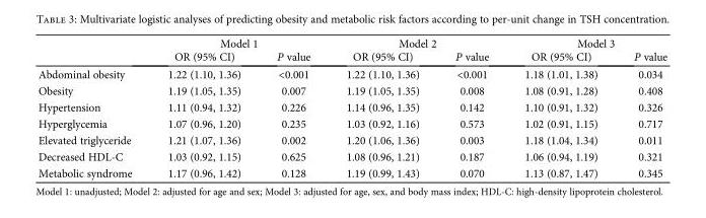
<table><thead><tr><td rowspan="2"></td><td colspan="2">Model 1</td><td colspan="2">Model 2</td><td colspan="2">Model 3</td></tr><tr><td>OR (95% CI)</td><td>P value</td><td>OR (95% CI)</td><td>P value</td><td>OR (95% CI)</td><td>P value</td></tr></thead><tbody><tr><td>Abdominal obesity</td><td>1.22 (1.10, 1.36)</td><td>&lt;0.001</td><td>1.22 (1.10, 1.36)</td><td>&lt;0.001</td><td>1.18 (1.01, 1.38)</td><td>0.034</td></tr><tr><td>Obesity</td><td>1.19 (1.05, 1.35)</td><td>0.007</td><td>1.19 (1.05, 1.35)</td><td>0.008</td><td>1.08 (0.91, 1.28)</td><td>0.408</td></tr><tr><td>Hypertension</td><td>1.11 (0.94, 1.32)</td><td>0.226</td><td>1.14 (0.96, 1.35)</td><td>0.142</td><td>1.10 (0.91, 1.32)</td><td>0.326</td></tr><tr><td>Hyperglycemia</td><td>1.07 (0.96, 1.20)</td><td>0.235</td><td>1.03 (0.92, 1.16)</td><td>0.573</td><td>1.02 (0.91, 1.15)</td><td>0.717</td></tr><tr><td>Elevated triglyceride</td><td>1.21 (1.07, 1.36)</td><td>0.002</td><td>1.20 (1.06, 1.36)</td><td>0.003</td><td>1.18 (1.04, 1.34)</td><td>0.011</td></tr><tr><td>Decreased HDL-C</td><td>1.03 (0.92, 1.15)</td><td>0.625</td><td>1.08 (0.96, 1.21)</td><td>0.187</td><td>1.06 (0.94, 1.19)</td><td>0.321</td></tr><tr><td>Metabolic syndrome</td><td>1.17 (0.96, 1.42)</td><td>0.128</td><td>1.19 (0.99, 1.43)</td><td>0.070</td><td>1.13 (0.87, 1.47)</td><td>0.345</td></tr></tbody></table>